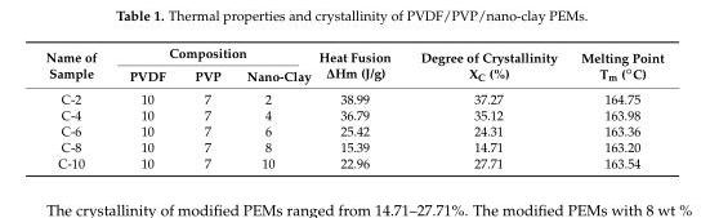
<table><thead><tr><td rowspan="2">Name of Sample</td><td colspan="3">Composition</td><td rowspan="2">Heat Fusion ∆Hm (J/g)</td><td rowspan="2">Degree of Crystallinity X<sub>C</sub> (%)</td><td rowspan="2">Melting Point Tm (◦C)</td></tr><tr><td>PVDF</td><td>PVP</td><td>Nano-Clay</td></tr></thead><tbody><tr><td>C-2</td><td>10</td><td>7</td><td>2</td><td>38.99</td><td>37.27</td><td>164.75</td></tr><tr><td>C-4</td><td>10</td><td>7</td><td>4</td><td>36.79</td><td>35.12</td><td>163.98</td></tr><tr><td>C-6</td><td>10</td><td>7</td><td>6</td><td>25.42</td><td>24.31</td><td>163.36</td></tr><tr><td>C-8</td><td>10</td><td>7</td><td>8</td><td>15.39</td><td>14.71</td><td>163.20</td></tr><tr><td>C-10</td><td>10</td><td>7</td><td>10</td><td>22.96</td><td>27.71</td><td>163.54</td></tr></tbody></table>